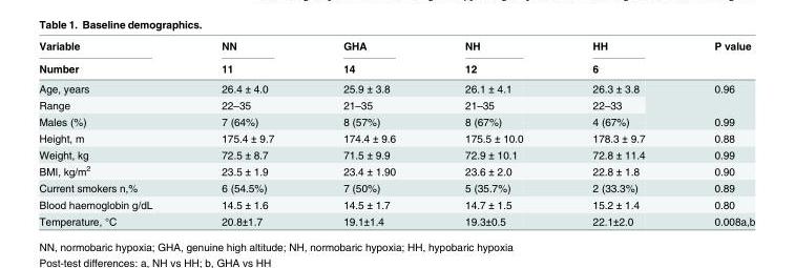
<table><thead><tr><td rowspan="2">Variable Number</td><td rowspan="2">NN 11</td><td rowspan="2">GHA 14</td><td rowspan="2">NH 12</td><td rowspan="2">HH 6</td><td rowspan="2">P value</td></tr><tr></tr></thead><tbody><tr><td>Age, years</td><td>26.4 ± 4.0</td><td>25.9 ± 3.8</td><td>26.1 ± 4.1</td><td>26.3 ± 3.8</td><td rowspan="2">0.96</td></tr><tr><td>Range</td><td>22–35</td><td>21–35</td><td>21–35</td><td>22–33</td></tr><tr><td>Males (%)</td><td>7 (64%)</td><td>8 (57%)</td><td>8 (67%)</td><td>4 (67%)</td><td>0.99</td></tr><tr><td>Height, m</td><td>175.4 ± 9.7</td><td>174.4 ± 9.6</td><td>175.5 ± 10.0</td><td>178.3 ± 9.7</td><td>0.88</td></tr><tr><td>Weight, kg</td><td>72.5 ± 8.7</td><td>71.5 ± 9.9</td><td>72.9 ± 10.1</td><td>72.8 ± 11.4</td><td>0.99</td></tr><tr><td>BMI, kg/m<sup>2</sup></td><td>23.5 ± 1.9</td><td>23.4 ± 1.90</td><td>23.6 ± 2.0</td><td>22.8 ± 1.8</td><td>0.90</td></tr><tr><td>Current smokers n,%</td><td>6 (54.5%)</td><td>7 (50%)</td><td>5 (35.7%)</td><td>2 (33.3%)</td><td>0.89</td></tr><tr><td>Blood haemoglobin g/dL</td><td>14.5 ± 1.6</td><td>14.5 ± 1.7</td><td>14.7 ± 1.5</td><td>15.2 ± 1.4</td><td>0.80</td></tr><tr><td>Temperature, °C</td><td>20.8±1.7</td><td>19.1±1.4</td><td>19.3±0.5</td><td>22.1±2.0</td><td>0.008a,b</td></tr></tbody></table>